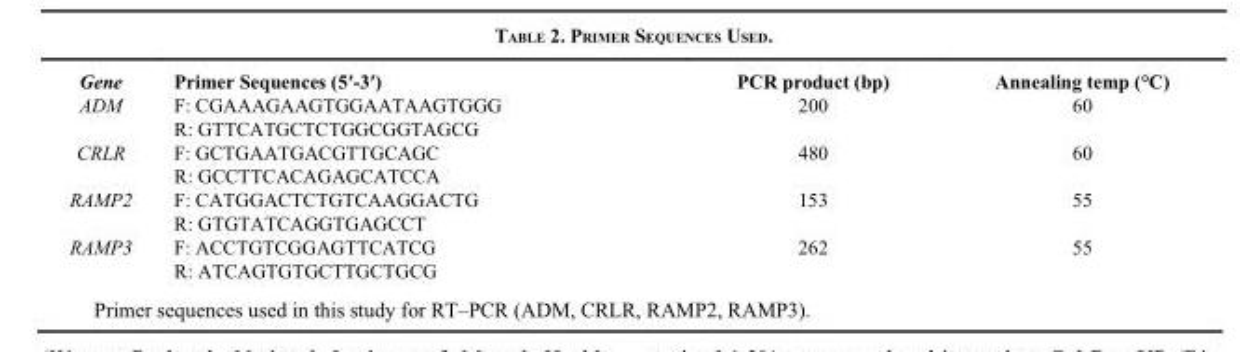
<table><thead><tr><td>Gene</td><td>Primer Sequences (5′-3′)</td><td>PCR product (bp)</td><td>Annealing temp (°C)</td></tr></thead><tbody><tr><td rowspan="2">ADM</td><td>F: CGAAAGAAGTGGAATAAGTGGG</td><td>200</td><td>60</td></tr><tr><td>R: GTTCATGCTCTGGCGGTAGCG</td><td></td><td></td></tr><tr><td rowspan="2">CRLR</td><td>F: GCTGAATGACGTTGCAGC</td><td>480</td><td>60</td></tr><tr><td>R: GCCTTCACAGAGCATCCA</td><td></td><td></td></tr><tr><td rowspan="2">RAMP2</td><td>F: CATGGACTCTGTCAAGGACTG</td><td>153</td><td>55</td></tr><tr><td>R: GTGTATCAGGTGAGCCT</td><td></td><td></td></tr><tr><td rowspan="2">RAMP3</td><td>F: ACCTGTCGGAGTTCATCG</td><td>262</td><td>55</td></tr><tr><td>R: ATCAGTGTGCTTGCTGCG</td><td></td><td></td></tr></tbody></table>